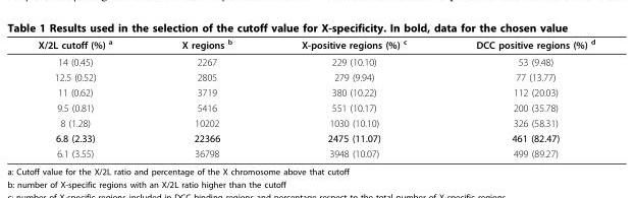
<table><thead><tr><td>X/2L cutoff (%) <sup>a</sup></td><td>X regions <sup>b</sup></td><td>X-positive regions (%) <sup>c</sup></td><td>DCC positive regions (%) <sup>d</sup></td></tr></thead><tbody><tr><td>14 (0.45)</td><td>2267</td><td>229 (10.10)</td><td>53 (9.48)</td></tr><tr><td>12.5 (0.52)</td><td>2805</td><td>279 (9.94)</td><td>77 (13.77)</td></tr><tr><td>11 (0.62)</td><td>3719</td><td>380 (10.22)</td><td>112 (20.03)</td></tr><tr><td>9.5 (0.81)</td><td>5416</td><td>551 (10.17)</td><td>200 (35.78)</td></tr><tr><td>8 (1.28)</td><td>10202</td><td>1030 (10.10)</td><td>326 (58.31)</td></tr><tr><td>6.8 (2.33)</td><td>22366</td><td>2475 (11.07)</td><td>461 (82.47)</td></tr><tr><td>6.1 (3.55)</td><td>36798</td><td>3948 (10.07)</td><td>499 (89.27)</td></tr></tbody></table>